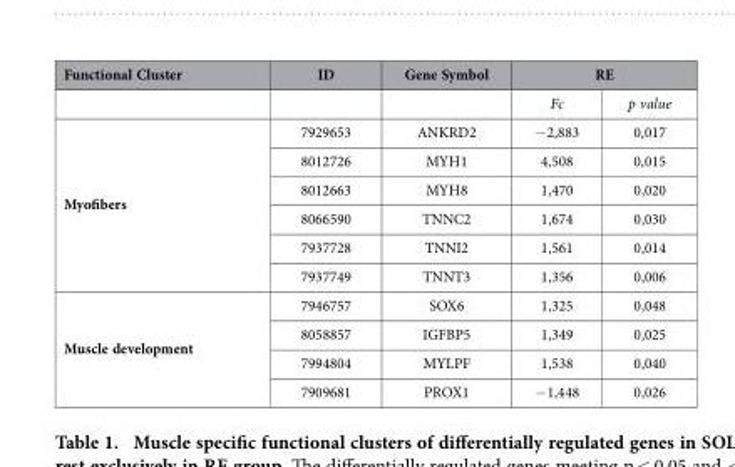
<table><thead><tr><td rowspan="2">Functional Cluster</td><td rowspan="2">ID</td><td rowspan="2">Gene Symbol</td><td colspan="2">RE</td></tr><tr><td>Fc</td><td>p value</td></tr></thead><tbody><tr><td rowspan="6">Myofibers</td><td>7929653</td><td>ANKRD2</td><td>− 2,883</td><td>0,017</td></tr><tr><td>8012726</td><td>MYH1</td><td>4,508</td><td>0,015</td></tr><tr><td>8012663</td><td>MYH8</td><td>1,470</td><td>0,020</td></tr><tr><td>8066590</td><td>TNNC2</td><td>1,674</td><td>0,030</td></tr><tr><td>7937728</td><td>TNNI2</td><td>1,561</td><td>0,014</td></tr><tr><td>7937749</td><td>TNNT3</td><td>1,356</td><td>0,006</td></tr><tr><td rowspan="4">Muscle development</td><td>7946757</td><td>SOX6</td><td>1,325</td><td>0,048</td></tr><tr><td>8058857</td><td>IGFBP5</td><td>1,349</td><td>0,025</td></tr><tr><td>7994804</td><td>MYLPF</td><td>1,538</td><td>0,040</td></tr><tr><td>7909681</td><td>PROX1</td><td>− 1,448</td><td>0,026</td></tr></tbody></table>